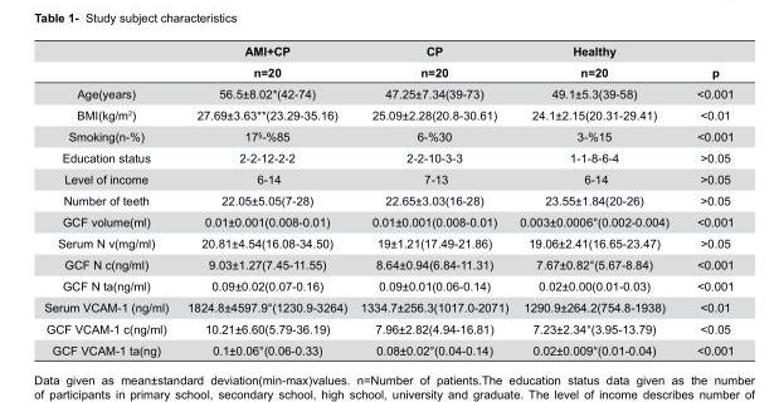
<table><thead><tr><td rowspan="2"></td><td rowspan="2">AMI+CP n=20</td><td rowspan="2">CP n=20</td><td rowspan="2">Healthy n=20</td><td rowspan="2">p</td></tr><tr></tr></thead><tbody><tr><td>Age(years)</td><td>56.5±8.02*(42-74)</td><td>47.25±7.34(39-73)</td><td>49.1±5.3(39-58)</td><td>&lt;0.001</td></tr><tr><td>BMI(kg/m<sup>2</sup>)</td><td>27.69±3.63**(23.29-35.16)</td><td>25.09±2.28(20.8-30.61)</td><td>24.1±2.15(20.31-29.41)</td><td>&lt;0.01</td></tr><tr><td>Smoking(n-%)</td><td>17§-%85</td><td>6-%30</td><td>3-%15</td><td>&lt;0.001</td></tr><tr><td>Education status</td><td>2-2-12-2-2</td><td>2-2-10-3-3</td><td>1-1-8-6-4</td><td>&gt;0.05</td></tr><tr><td>Level of income</td><td>6-14</td><td>7-13</td><td>6-14</td><td>&gt;0.05</td></tr><tr><td>Number of teeth</td><td>22.05±5.05(7-28)</td><td>22.65±3.03(16-28)</td><td>23.55±1.84(20-26)</td><td>&gt;0.05</td></tr><tr><td>GCF volume(ml)</td><td>0.01±0.001(0.008-0.01)</td><td>0.01±0.001(0.008-0.01)</td><td>0.003±0.0006°(0.002-0.004)</td><td>&lt;0.001</td></tr><tr><td>Serum N v(mg/ml)</td><td>20.81±4.54(16.08-34.50)</td><td>19±1.21(17.49-21.86)</td><td>19.06±2.41(16.65-23.47)</td><td>&gt;0.05</td></tr><tr><td>GCF N c(ng/ml)</td><td>9.03±1.27(7.45-11.55)</td><td>8.64±0.94(6.84-11.31)</td><td>7.67±0.82°(5.67-8.84)</td><td>&lt;0.001</td></tr><tr><td>GCF N ta(ng/ml)</td><td>0.09±0.02(0.07-0.16)</td><td>0.09±0.01(0.06-0.14)</td><td>0.02±0.00(0.01-0.03)</td><td>&lt;0.001</td></tr><tr><td>Serum VCAM-1 (ng/ml)</td><td>1824.8±4597.9°(1230.9-3264)</td><td>1334.7±256.3(1017.0-2071)</td><td>1290.9±264.2(754.8-1938)</td><td>&lt;0.01</td></tr><tr><td>GCF VCAM-1 c(ng/ml)</td><td>10.21±6.60(5.79-36.19)</td><td>7.96±2.82(4.94-16.81)</td><td>7.23±2.34°(3.95-13.79)</td><td>&lt;0.05</td></tr><tr><td>GCF VCAM-1 ta(ng)</td><td>0.1±0.06°(0.06-0.33)</td><td>0.08±0.02°(0.04-0.14)</td><td>0.02±0.009°(0.01-0.04)</td><td>&lt;0.001</td></tr></tbody></table>